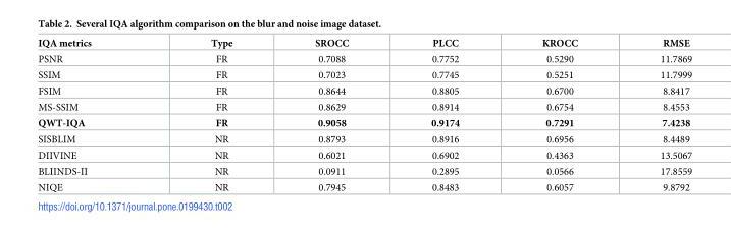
<table><thead><tr><td>IQA metrics</td><td>Type</td><td>SROCC</td><td>PLCC</td><td>KROCC</td><td>RMSE</td></tr></thead><tbody><tr><td>PSNR</td><td>FR</td><td>0.7088</td><td>0.7752</td><td>0.5290</td><td>11.7869</td></tr><tr><td>SSIM</td><td>FR</td><td>0.7023</td><td>0.7745</td><td>0.5251</td><td>11.7999</td></tr><tr><td>FSIM</td><td>FR</td><td>0.8644</td><td>0.8805</td><td>0.6700</td><td>8.8417</td></tr><tr><td>MS-SSIM</td><td>FR</td><td>0.8629</td><td>0.8914</td><td>0.6754</td><td>8.4553</td></tr><tr><td>QWT-IQA</td><td>FR</td><td>0.9058</td><td>0.9174</td><td>0.7291</td><td>7.4238</td></tr><tr><td>SISBLIM</td><td>NR</td><td>0.8793</td><td>0.8916</td><td>0.6956</td><td>8.4489</td></tr><tr><td>DIIVINE</td><td>NR</td><td>0.6021</td><td>0.6902</td><td>0.4363</td><td>13.5067</td></tr><tr><td>BLIINDS-II</td><td>NR</td><td>0.0911</td><td>0.2895</td><td>0.0566</td><td>17.8559</td></tr><tr><td>NIQE</td><td>NR</td><td>0.7945</td><td>0.8483</td><td>0.6057</td><td>9.8792</td></tr></tbody></table>